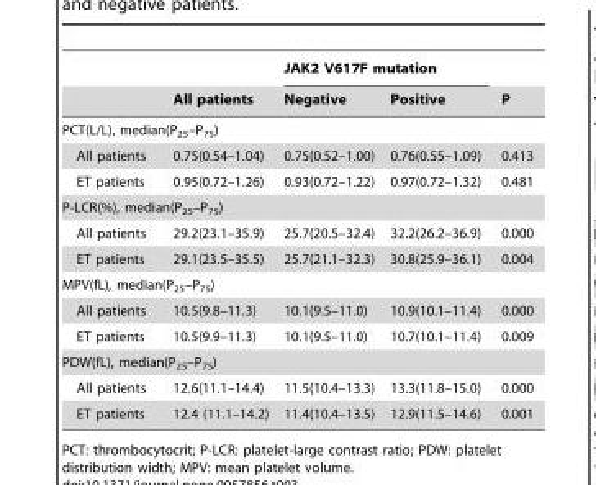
<table><thead><tr><td rowspan="2"></td><td rowspan="2">All patients</td><td colspan="2">JAK2 V617F mutation</td><td rowspan="2">P</td></tr><tr><td>Negative</td><td>Positive</td></tr></thead><tbody><tr><td colspan="5">PCT(L/L), median(P<sub>25</sub>–P<sub>75</sub>)</td></tr><tr><td>All patients</td><td>0.75(0.54–1.04)</td><td>0.75(0.52–1.00)</td><td>0.76(0.55–1.09)</td><td>0.413</td></tr><tr><td>ET patients</td><td>0.95(0.72–1.26)</td><td>0.93(0.72–1.22)</td><td>0.97(0.72–1.32)</td><td>0.481</td></tr><tr><td colspan="5">P-LCR(%), median(P<sub>25</sub>–P<sub>75</sub>)</td></tr><tr><td>All patients</td><td>29.2(23.1–35.9)</td><td>25.7(20.5–32.4)</td><td>32.2(26.2–36.9)</td><td>0.000</td></tr><tr><td>ET patients</td><td>29.1(23.5–35.5)</td><td>25.7(21.1–32.3)</td><td>30.8(25.9–36.1)</td><td>0.004</td></tr><tr><td colspan="5">MPV(fL), median(P<sub>25</sub>–P<sub>75</sub>)</td></tr><tr><td>All patients</td><td>10.5(9.8–11.3)</td><td>10.1(9.5–11.0)</td><td>10.9(10.1–11.4)</td><td>0.000</td></tr><tr><td>ET patients</td><td>10.5(9.9–11.3)</td><td>10.1(9.5–11.0)</td><td>10.7(10.1–11.4)</td><td>0.009</td></tr><tr><td colspan="5">PDW(fL), median(P<sub>25</sub>–P<sub>75</sub>)</td></tr><tr><td>All patients</td><td>12.6(11.1–14.4)</td><td>11.5(10.4–13.3)</td><td>13.3(11.8–15.0)</td><td>0.000</td></tr><tr><td>ET patients</td><td>12.4 (11.1–14.2)</td><td>11.4(10.4–13.5)</td><td>12.9(11.5–14.6)</td><td>0.001</td></tr></tbody></table>